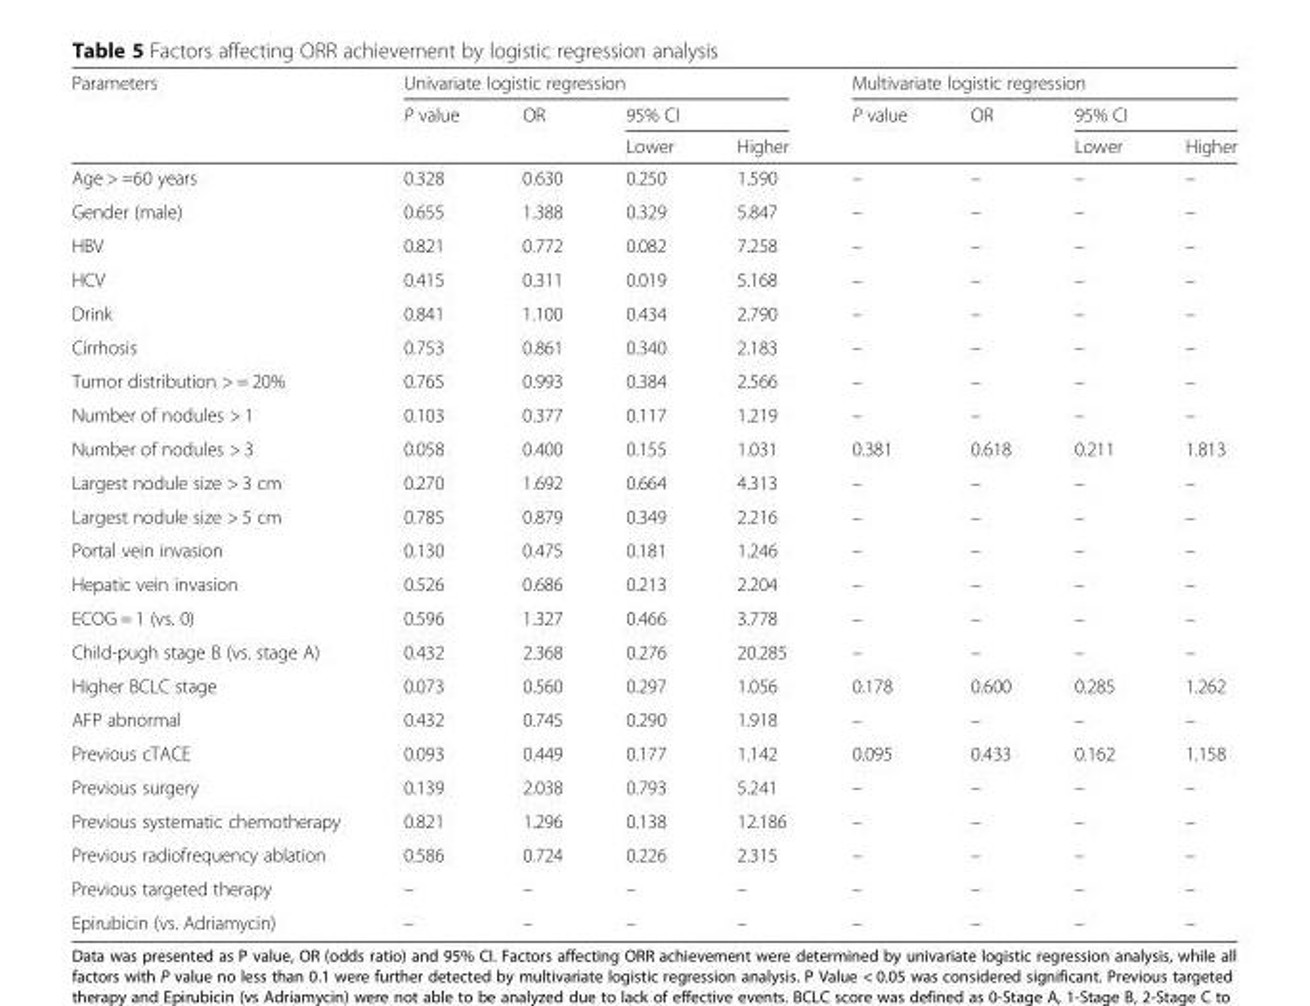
<table><thead><tr><td rowspan="3">Parameters</td><td colspan="4">Univariate logistic regression</td><td colspan="4">Multivariate logistic regression</td></tr><tr><td rowspan="2">P value</td><td rowspan="2">OR</td><td colspan="2">95% CI</td><td rowspan="2">P value</td><td rowspan="2">OR</td><td colspan="2">95% CI</td></tr><tr><td>Lower</td><td>Higher</td><td>Lower</td><td>Higher</td></tr></thead><tbody><tr><td>Age &gt; =60 years</td><td>0.328</td><td>0.630</td><td>0.250</td><td>1.590</td><td>–</td><td>–</td><td>–</td><td>–</td></tr><tr><td>Gender (male)</td><td>0.655</td><td>1.388</td><td>0.329</td><td>5.847</td><td>–</td><td>–</td><td>–</td><td>–</td></tr><tr><td>HBV</td><td>0.821</td><td>0.772</td><td>0.082</td><td>7.258</td><td>–</td><td>–</td><td>–</td><td>–</td></tr><tr><td>HCV</td><td>0.415</td><td>0.311</td><td>0.019</td><td>5.168</td><td>–</td><td>–</td><td>–</td><td>–</td></tr><tr><td>Drink</td><td>0.841</td><td>1.100</td><td>0.434</td><td>2.790</td><td>–</td><td>–</td><td>–</td><td>–</td></tr><tr><td>Cirrhosis</td><td>0.753</td><td>0.861</td><td>0.340</td><td>2.183</td><td>–</td><td>–</td><td>–</td><td>–</td></tr><tr><td>Tumor distribution &gt; = 20%</td><td>0.765</td><td>0.993</td><td>0.384</td><td>2.566</td><td>–</td><td>–</td><td>–</td><td>–</td></tr><tr><td>Number of nodules &gt; 1</td><td>0.103</td><td>0.377</td><td>0.117</td><td>1.219</td><td>–</td><td>–</td><td>–</td><td>–</td></tr><tr><td>Number of nodules &gt; 3</td><td>0.058</td><td>0.400</td><td>0.155</td><td>1.031</td><td>0.381</td><td>0.618</td><td>0.211</td><td>1.813</td></tr><tr><td>Largest nodule size &gt; 3 cm</td><td>0.270</td><td>1.692</td><td>0.664</td><td>4.313</td><td>–</td><td>–</td><td>–</td><td>–</td></tr><tr><td>Largest nodule size &gt; 5 cm</td><td>0.785</td><td>0.879</td><td>0.349</td><td>2.216</td><td>–</td><td>–</td><td>–</td><td>–</td></tr><tr><td>Portal vein invasion</td><td>0.130</td><td>0.475</td><td>0.181</td><td>1.246</td><td>–</td><td>–</td><td>–</td><td>–</td></tr><tr><td>Hepatic vein invasion</td><td>0.526</td><td>0.686</td><td>0.213</td><td>2.204</td><td>–</td><td>–</td><td>–</td><td>–</td></tr><tr><td>ECOG = 1 (vs. 0)</td><td>0.596</td><td>1.327</td><td>0.466</td><td>3.778</td><td>–</td><td>–</td><td>–</td><td>–</td></tr><tr><td>Child-pugh stage B (vs. stage A)</td><td>0.432</td><td>2.368</td><td>0.276</td><td>20.285</td><td>–</td><td>–</td><td>–</td><td>–</td></tr><tr><td>Higher BCLC stage</td><td>0.073</td><td>0.560</td><td>0.297</td><td>1.056</td><td>0.178</td><td>0.600</td><td>0.285</td><td>1.262</td></tr><tr><td>AFP abnormal</td><td>0.432</td><td>0.745</td><td>0.290</td><td>1.918</td><td>–</td><td>–</td><td>–</td><td>–</td></tr><tr><td>Previous cTACE</td><td>0.093</td><td>0.449</td><td>0.177</td><td>1.142</td><td>0.095</td><td>0.433</td><td>0.162</td><td>1.158</td></tr><tr><td>Previous surgery</td><td>0.139</td><td>2.038</td><td>0.793</td><td>5.241</td><td>–</td><td>–</td><td>–</td><td>–</td></tr><tr><td>Previous systematic chemotherapy</td><td>0.821</td><td>1.296</td><td>0.138</td><td>12.186</td><td>–</td><td>–</td><td>–</td><td>–</td></tr><tr><td>Previous radiofrequency ablation</td><td>0.586</td><td>0.724</td><td>0.226</td><td>2.315</td><td>–</td><td>–</td><td>–</td><td>–</td></tr><tr><td>Previous targeted therapy</td><td>–</td><td>–</td><td>–</td><td>–</td><td>–</td><td>–</td><td>–</td><td>–</td></tr><tr><td>Epirubicin (vs. Adriamycin)</td><td>–</td><td>–</td><td>–</td><td>–</td><td>–</td><td>–</td><td>–</td><td>–</td></tr></tbody></table>